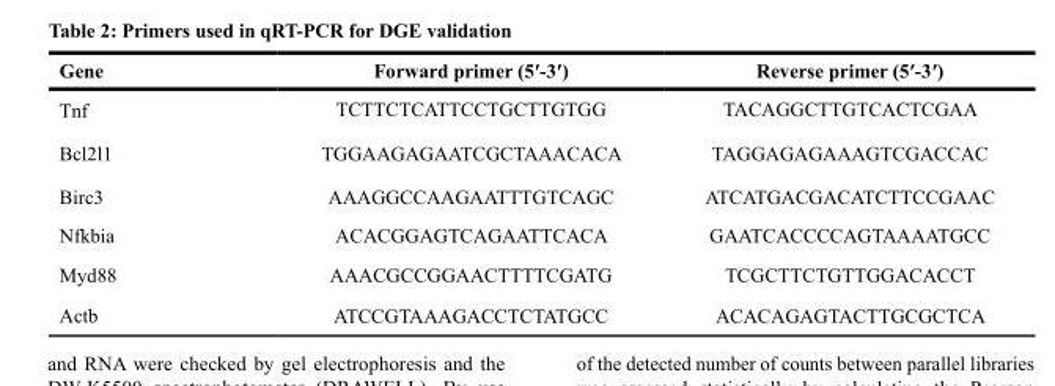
<table><thead><tr><td>Gene</td><td>Forward primer (5ʹ-3ʹ)</td><td>Reverse primer (5ʹ-3ʹ)</td></tr></thead><tbody><tr><td>Tnf</td><td>TCTTCTCATTCCTGCTTGTGG</td><td>TACAGGCTTGTCACTCGAA</td></tr><tr><td>Bcl2l1</td><td>TGGAAGAGAATCGCTAAACACA</td><td>TAGGAGAGAAAGTCGACCAC</td></tr><tr><td>Birc3</td><td>AAAGGCCAAGAATTTGTCAGC</td><td>ATCATGACGACATCTTCCGAAC</td></tr><tr><td>Nfkbia</td><td>ACACGGAGTCAGAATTCACA</td><td>GAATCACCCCAGTAAAATGCC</td></tr><tr><td>Myd88</td><td>AAACGCCGGAACTTTTCGATG</td><td>TCGCTTCTGTTGGACACCT</td></tr><tr><td>Actb</td><td>ATCCGTAAAGACCTCTATGCC</td><td>ACACAGAGTACTTGCGCTCA</td></tr></tbody></table>